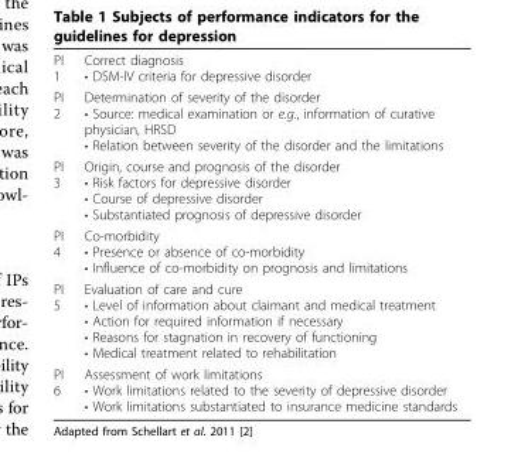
<table><tbody><tr><td>PI 1</td><td>Correct diagnosis • DSM-IV criteria for depressive disorder</td></tr><tr><td>PI 2</td><td>Determination of severity of the disorder • Source: medical examination or e.g., information of curative physician, HRSD • Relation between severity of the disorder and the limitations</td></tr><tr><td>PI 3</td><td>Origin, course and prognosis of the disorder • Risk factors for depressive disorder • Course of depressive disorder • Substantiated prognosis of depressive disorder</td></tr><tr><td>PI 4</td><td>Co-morbidity • Presence or absence of co-morbidity • Influence of co-morbidity on prognosis and limitations</td></tr><tr><td>PI 5</td><td>Evaluation of care and cure • Level of information about claimant and medical treatment • Action for required information if necessary • Reasons for stagnation in recovery of functioning • Medical treatment related to rehabilitation</td></tr><tr><td>PI 6</td><td>Assessment of work limitations • Work limitations related to the severity of depressive disorder • Work limitations substantiated to insurance medicine standards</td></tr></tbody></table>